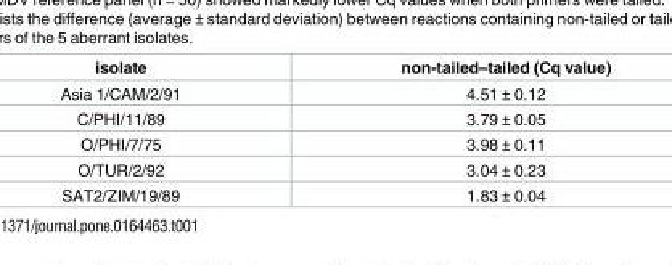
<table><thead><tr><td>isolate</td><td>non-tailed–tailed (Cq value)</td></tr></thead><tbody><tr><td>Asia 1/CAM/2/91</td><td>4.51 ± 0.12</td></tr><tr><td>C/PHI/11/89</td><td>3.79 ± 0.05</td></tr><tr><td>O/PHI/7/75</td><td>3.98 ± 0.11</td></tr><tr><td>O/TUR/2/92</td><td>3.04 ± 0.23</td></tr><tr><td>SAT2/ZIM/19/89</td><td>1.83 ± 0.04</td></tr></tbody></table>